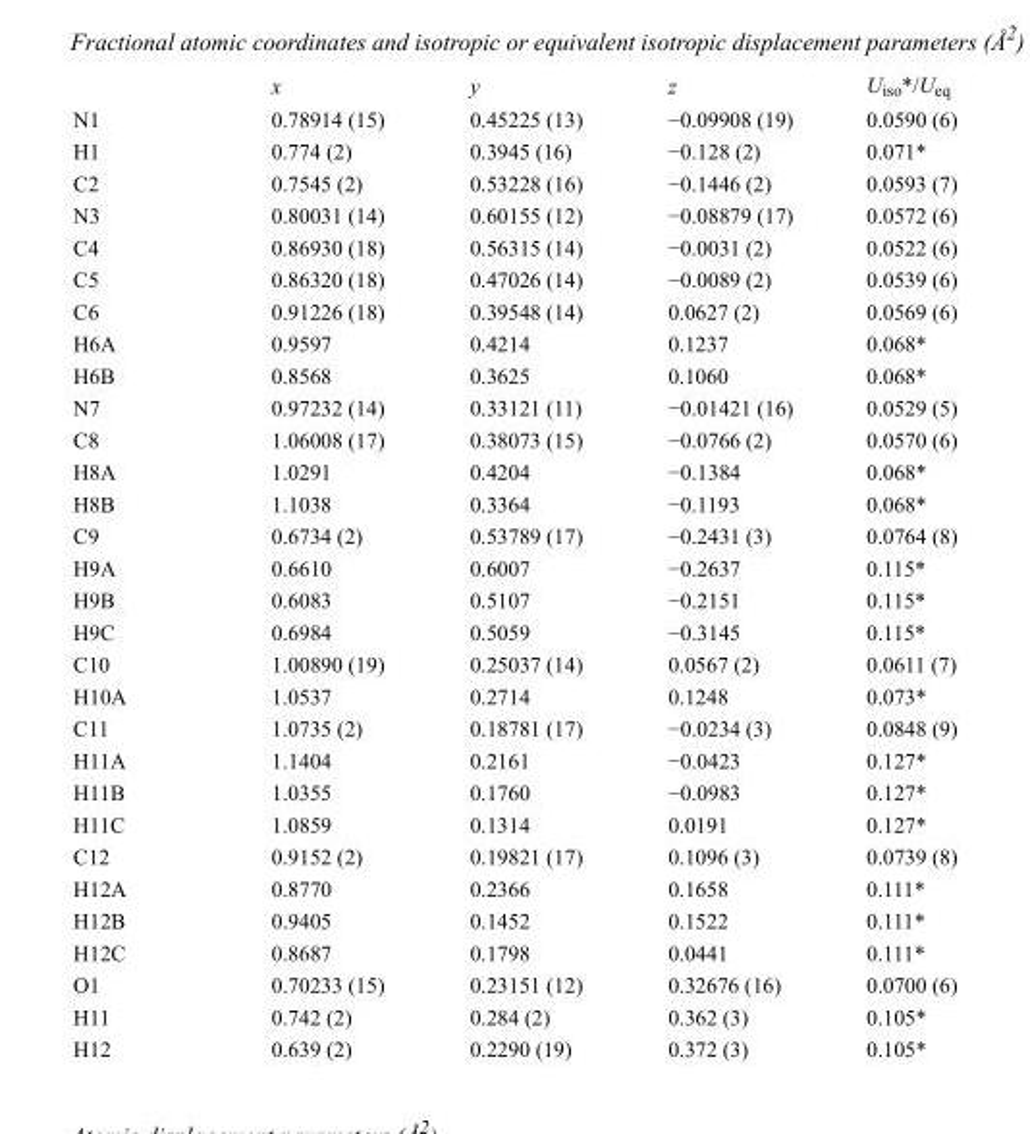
<table><thead><tr><td></td><td>x</td><td>y</td><td>z</td><td>U<sub>iso</sub>*/U<sub>eq</sub></td></tr></thead><tbody><tr><td>N1</td><td>0.78914 (15)</td><td>0.45225 (13)</td><td>−0.09908 (19)</td><td>0.0590 (6)</td></tr><tr><td>H1</td><td>0.774 (2)</td><td>0.3945 (16)</td><td>−0.128 (2)</td><td>0.071*</td></tr><tr><td>C2</td><td>0.7545 (2)</td><td>0.53228 (16)</td><td>−0.1446 (2)</td><td>0.0593 (7)</td></tr><tr><td>N3</td><td>0.80031 (14)</td><td>0.60155 (12)</td><td>−0.08879 (17)</td><td>0.0572 (6)</td></tr><tr><td>C4</td><td>0.86930 (18)</td><td>0.56315 (14)</td><td>−0.0031 (2)</td><td>0.0522 (6)</td></tr><tr><td>C5</td><td>0.86320 (18)</td><td>0.47026 (14)</td><td>−0.0089 (2)</td><td>0.0539 (6)</td></tr><tr><td>C6</td><td>0.91226 (18)</td><td>0.39548 (14)</td><td>0.0627 (2)</td><td>0.0569 (6)</td></tr><tr><td>H6A</td><td>0.9597</td><td>0.4214</td><td>0.1237</td><td>0.068*</td></tr><tr><td>H6B</td><td>0.8568</td><td>0.3625</td><td>0.1060</td><td>0.068*</td></tr><tr><td>N7</td><td>0.97232 (14)</td><td>0.33121 (11)</td><td>−0.01421 (16)</td><td>0.0529 (5)</td></tr><tr><td>C8</td><td>1.06008 (17)</td><td>0.38073 (15)</td><td>−0.0766 (2)</td><td>0.0570 (6)</td></tr><tr><td>H8A</td><td>1.0291</td><td>0.4204</td><td>−0.1384</td><td>0.068*</td></tr><tr><td>H8B</td><td>1.1038</td><td>0.3364</td><td>−0.1193</td><td>0.068*</td></tr><tr><td>C9</td><td>0.6734 (2)</td><td>0.53789 (17)</td><td>−0.2431 (3)</td><td>0.0764 (8)</td></tr><tr><td>H9A</td><td>0.6610</td><td>0.6007</td><td>−0.2637</td><td>0.115*</td></tr><tr><td>H9B</td><td>0.6083</td><td>0.5107</td><td>−0.2151</td><td>0.115*</td></tr><tr><td>H9C</td><td>0.6984</td><td>0.5059</td><td>−0.3145</td><td>0.115*</td></tr><tr><td>C10</td><td>1.00890 (19)</td><td>0.25037 (14)</td><td>0.0567 (2)</td><td>0.0611 (7)</td></tr><tr><td>H10A</td><td>1.0537</td><td>0.2714</td><td>0.1248</td><td>0.073*</td></tr><tr><td>C11</td><td>1.0735 (2)</td><td>0.18781 (17)</td><td>−0.0234 (3)</td><td>0.0848 (9)</td></tr><tr><td>H11A</td><td>1.1404</td><td>0.2161</td><td>−0.0423</td><td>0.127*</td></tr><tr><td>H11B</td><td>1.0355</td><td>0.1760</td><td>−0.0983</td><td>0.127*</td></tr><tr><td>H11C</td><td>1.0859</td><td>0.1314</td><td>0.0191</td><td>0.127*</td></tr><tr><td>C12</td><td>0.9152 (2)</td><td>0.19821 (17)</td><td>0.1096 (3)</td><td>0.0739 (8)</td></tr><tr><td>H12A</td><td>0.8770</td><td>0.2366</td><td>0.1658</td><td>0.111*</td></tr><tr><td>H12B</td><td>0.9405</td><td>0.1452</td><td>0.1522</td><td>0.111*</td></tr><tr><td>H12C</td><td>0.8687</td><td>0.1798</td><td>0.0441</td><td>0.111*</td></tr><tr><td>O1</td><td>0.70233 (15)</td><td>0.23151 (12)</td><td>0.32676 (16)</td><td>0.0700 (6)</td></tr><tr><td>H11</td><td>0.742 (2)</td><td>0.284 (2)</td><td>0.362 (3)</td><td>0.105*</td></tr><tr><td>H12</td><td>0.639 (2)</td><td>0.2290 (19)</td><td>0.372 (3)</td><td>0.105*</td></tr></tbody></table>